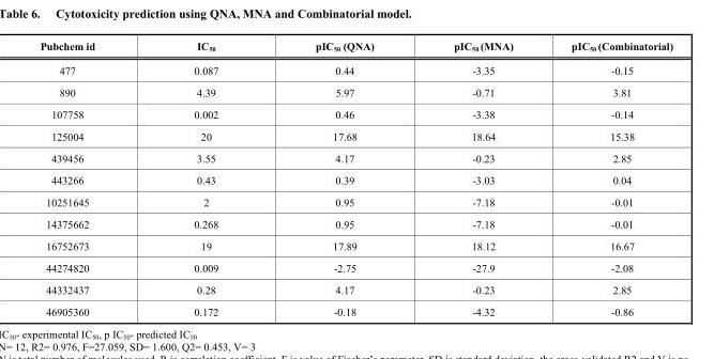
<table><thead><tr><td>Pubchem id</td><td>IC50</td><td>pIC50 (QNA)</td><td>pIC50 (MNA)</td><td>pIC50 (Combinatorial)</td></tr></thead><tbody><tr><td>477</td><td>0.087</td><td>0.44</td><td>-3.35</td><td>-0.15</td></tr><tr><td>890</td><td>4.39</td><td>5.97</td><td>-0.71</td><td>3.81</td></tr><tr><td>107758</td><td>0.002</td><td>0.46</td><td>-3.38</td><td>-0.14</td></tr><tr><td>125004</td><td>20</td><td>17.68</td><td>18.64</td><td>15.38</td></tr><tr><td>439456</td><td>3.55</td><td>4.17</td><td>-0.23</td><td>2.85</td></tr><tr><td>443266</td><td>0.43</td><td>0.39</td><td>-3.03</td><td>0.04</td></tr><tr><td>10251645</td><td>2</td><td>0.95</td><td>-7.18</td><td>-0.01</td></tr><tr><td>14375662</td><td>0.268</td><td>0.95</td><td>-7.18</td><td>-0.01</td></tr><tr><td>16752673</td><td>19</td><td>17.89</td><td>18.12</td><td>16.67</td></tr><tr><td>44274820</td><td>0.009</td><td>-2.75</td><td>-27.9</td><td>-2.08</td></tr><tr><td>44332437</td><td>0.28</td><td>4.17</td><td>-0.23</td><td>2.85</td></tr><tr><td>46905360</td><td>0.172</td><td>-0.18</td><td>-4.32</td><td>-0.86</td></tr></tbody></table>